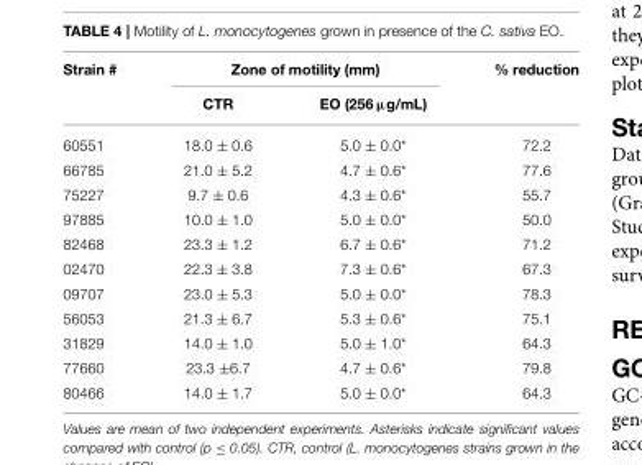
<table><thead><tr><td rowspan="2">Strain #</td><td colspan="2">Zone of motility (mm)</td><td rowspan="2">% reduction</td></tr><tr><td>CTR</td><td>EO (256 µg/mL)</td></tr></thead><tbody><tr><td>60551</td><td>18.0 ± 0.6</td><td>5.0 ± 0.0*</td><td>72.2</td></tr><tr><td>66785</td><td>21.0 ± 5.2</td><td>4.7 ± 0.6*</td><td>77.6</td></tr><tr><td>75227</td><td>9.7 ± 0.6</td><td>4.3 ± 0.6*</td><td>55.7</td></tr><tr><td>97885</td><td>10.0 ± 1.0</td><td>5.0 ± 0.0*</td><td>50.0</td></tr><tr><td>82468</td><td>23.3 ± 1.2</td><td>6.7 ± 0.6*</td><td>71.2</td></tr><tr><td>02470</td><td>22.3 ± 3.8</td><td>7.3 ± 0.6*</td><td>67.3</td></tr><tr><td>09707</td><td>23.0 ± 5.3</td><td>5.0 ± 0.0*</td><td>78.3</td></tr><tr><td>56053</td><td>21.3 ± 6.7</td><td>5.3 ± 0.6*</td><td>75.1</td></tr><tr><td>31829</td><td>14.0 ± 1.0</td><td>5.0 ± 1.0*</td><td>64.3</td></tr><tr><td>77660</td><td>23.3 ±6.7</td><td>4.7 ± 0.6*</td><td>79.8</td></tr><tr><td>80466</td><td>14.0 ± 1.7</td><td>5.0 ± 0.0*</td><td>64.3</td></tr></tbody></table>